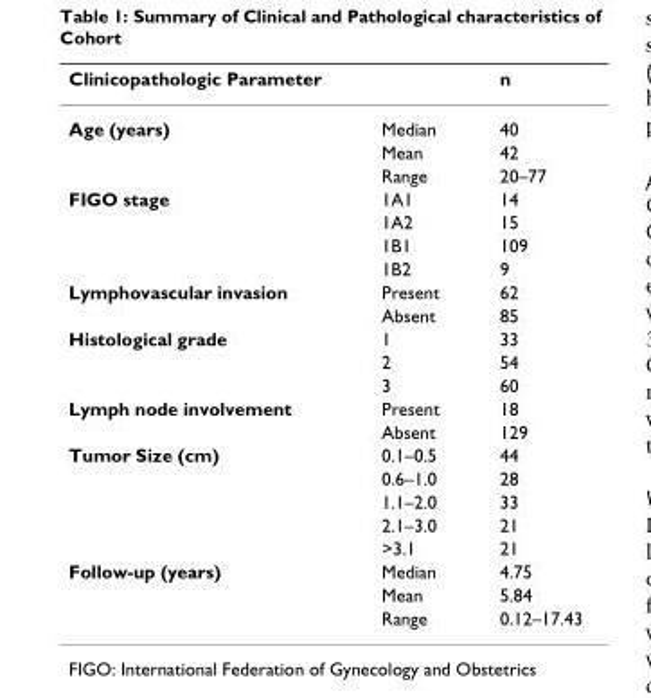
<table><thead><tr><td colspan="2">Clinicopathologic Parameter</td><td rowspan="2">n 40</td></tr><tr><td>Age (years)</td><td>Median</td></tr></thead><tbody><tr><td></td><td>Mean</td><td>42</td></tr><tr><td></td><td>Range</td><td>20–77</td></tr><tr><td rowspan="4">FIGO stage</td><td>1A1</td><td>14</td></tr><tr><td>1A2</td><td>15</td></tr><tr><td>1B1</td><td>109</td></tr><tr><td>1B2</td><td>9</td></tr><tr><td rowspan="2">Lymphovascular invasion</td><td>Present</td><td>62</td></tr><tr><td>Absent</td><td>85</td></tr><tr><td rowspan="3">Histological grade</td><td>1</td><td>33</td></tr><tr><td>2</td><td>54</td></tr><tr><td>3</td><td>60</td></tr><tr><td rowspan="2">Lymph node involvement</td><td>Present</td><td>18</td></tr><tr><td>Absent</td><td>129</td></tr><tr><td rowspan="5">Tumor Size (cm)</td><td>0.1–0.5</td><td>44</td></tr><tr><td>0.6–1.0</td><td>28</td></tr><tr><td>1.1–2.0</td><td>33</td></tr><tr><td>2.1–3.0</td><td>21</td></tr><tr><td>&gt;3.1</td><td>21</td></tr><tr><td rowspan="3">Follow-up (years)</td><td>Median</td><td>4.75</td></tr><tr><td>Mean</td><td>5.84</td></tr><tr><td>Range</td><td>0.12–17.43</td></tr></tbody></table>